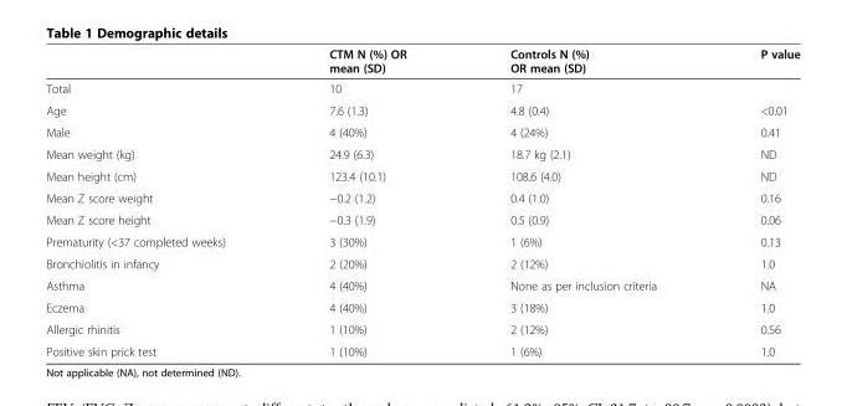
<table><thead><tr><td></td><td>CTM N (%) OR mean (SD)</td><td>Controls N (%) OR mean (SD)</td><td>P value</td></tr></thead><tbody><tr><td>Total</td><td>10</td><td>17</td><td></td></tr><tr><td>Age</td><td>7.6 (1.3)</td><td>4.8 (0.4)</td><td>&lt;0.01</td></tr><tr><td>Male</td><td>4 (40%)</td><td>4 (24%)</td><td>0.41</td></tr><tr><td>Mean weight (kg)</td><td>24.9 (6.3)</td><td>18.7 kg (2.1)</td><td>ND</td></tr><tr><td>Mean height (cm)</td><td>123.4 (10.1)</td><td>108.6 (4.0)</td><td>ND</td></tr><tr><td>Mean Z score weight</td><td>−0.2 (1.2)</td><td>0.4 (1.0)</td><td>0.16</td></tr><tr><td>Mean Z score height</td><td>−0.3 (1.9)</td><td>0.5 (0.9)</td><td>0.06</td></tr><tr><td>Prematurity (&lt;37 completed weeks)</td><td>3 (30%)</td><td>1 (6%)</td><td>0.13</td></tr><tr><td>Bronchiolitis in infancy</td><td>2 (20%)</td><td>2 (12%)</td><td>1.0</td></tr><tr><td>Asthma</td><td>4 (40%)</td><td>None as per inclusion criteria</td><td>NA</td></tr><tr><td>Eczema</td><td>4 (40%)</td><td>3 (18%)</td><td>1.0</td></tr><tr><td>Allergic rhinitis</td><td>1 (10%)</td><td>2 (12%)</td><td>0.56</td></tr><tr><td>Positive skin prick test</td><td>1 (10%)</td><td>1 (6%)</td><td>1.0</td></tr></tbody></table>